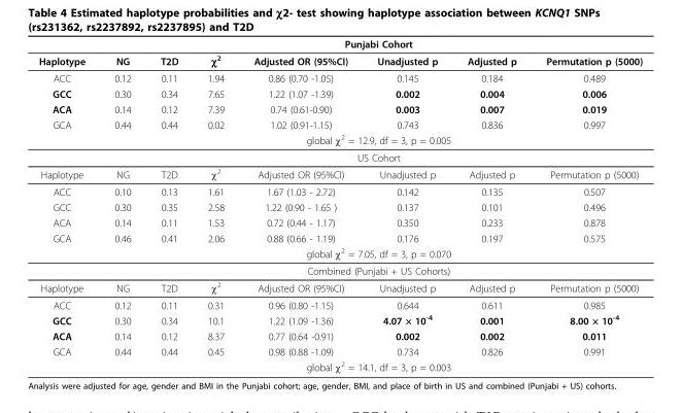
<table><thead><tr><td rowspan="2">Haplotype</td><td colspan="7">Punjabi Cohort</td></tr><tr><td>NG</td><td>T2D</td><td>χ<sup>2</sup></td><td>Adjusted OR (95%CI)</td><td>Unadjusted p</td><td>Adjusted p</td><td>Permutation p (5000)</td></tr></thead><tbody><tr><td>ACC</td><td>0.12</td><td>0.11</td><td>1.94</td><td>0.86 (0.70 -1.05)</td><td>0.145</td><td>0.184</td><td>0.489</td></tr><tr><td>GCC</td><td>0.30</td><td>0.34</td><td>7.65</td><td>1.22 (1.07 -1.39)</td><td>0.002</td><td>0.004</td><td>0.006</td></tr><tr><td>ACA</td><td>0.14</td><td>0.12</td><td>7.39</td><td>0.74 (0.61-0.90)</td><td>0.003</td><td>0.007</td><td>0.019</td></tr><tr><td rowspan="3">GCA</td><td>0.44</td><td>0.44</td><td>0.02</td><td>1.02 (0.91-1.15)</td><td>0.743</td><td>0.836</td><td>0.997</td></tr><tr><td colspan="7">global χ<sup>2</sup> = 12.9, df = 3, p = 0.005</td></tr><tr><td colspan="7">US Cohort</td></tr><tr><td>Haplotype</td><td>NG</td><td>T2D</td><td>χ<sup>2</sup></td><td>Adjusted OR (95%CI)</td><td>Unadjusted p</td><td>Adjusted p</td><td>Permutation p (5000)</td></tr><tr><td>ACC</td><td>0.10</td><td>0.13</td><td>1.61</td><td>1.67 (1.03 - 2.72)</td><td>0.142</td><td>0.135</td><td>0.507</td></tr><tr><td>GCC</td><td>0.30</td><td>0.35</td><td>2.58</td><td>1.22 (0.90 - 1.65 )</td><td>0.137</td><td>0.101</td><td>0.496</td></tr><tr><td>ACA</td><td>0.14</td><td>0.11</td><td>1.53</td><td>0.72 (0.44 - 1.17)</td><td>0.350</td><td>0.233</td><td>0.878</td></tr><tr><td rowspan="3">GCA</td><td>0.46</td><td>0.41</td><td>2.06</td><td>0.88 (0.66 - 1.19)</td><td>0.176</td><td>0.197</td><td>0.575</td></tr><tr><td colspan="7">global χ<sup>2</sup> = 7.05, df = 3, p = 0.070</td></tr><tr><td colspan="7">Combined (Punjabi + US Cohorts)</td></tr><tr><td>Haplotype</td><td>NG</td><td>T2D</td><td>χ<sup>2</sup></td><td>Adjusted OR (95%CI)</td><td>Unadjusted p</td><td>Adjusted p</td><td>Permutation p (5000)</td></tr><tr><td>ACC</td><td>0.12</td><td>0.11</td><td>0.31</td><td>0.96 (0.80 -1.15)</td><td>0.644</td><td>0.611</td><td>0.985</td></tr><tr><td>GCC</td><td>0.30</td><td>0.34</td><td>10.1</td><td>1.22 (1.09 -1.36)</td><td>4.07 × 10<sup>-4</sup></td><td>0.001</td><td>8.00 × 10<sup>-4</sup></td></tr><tr><td>ACA</td><td>0.14</td><td>0.12</td><td>8.37</td><td>0.77 (0.64 -0.91)</td><td>0.002</td><td>0.002</td><td>0.011</td></tr><tr><td rowspan="2">GCA</td><td>0.44</td><td>0.44</td><td>0.45</td><td>0.98 (0.88 -1.09)</td><td>0.734</td><td>0.826</td><td>0.991</td></tr><tr><td colspan="7">global χ<sup>2</sup> = 14.1, df = 3, p = 0.003</td></tr></tbody></table>